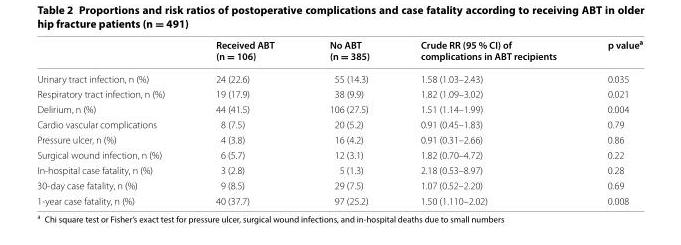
<table><thead><tr><td></td><td>Received ABT (n = 106)</td><td>No ABT (n = 385)</td><td>Crude RR (95 % CI) of complications in ABT recipients</td><td>p value<sup>a</sup></td></tr></thead><tbody><tr><td>Urinary tract infection, n (%)</td><td>24 (22.6)</td><td>55 (14.3)</td><td>1.58 (1.03–2.43)</td><td>0.035</td></tr><tr><td>Respiratory tract infection, n (%)</td><td>19 (17.9)</td><td>38 (9.9)</td><td>1.82 (1.09–3.02)</td><td>0.021</td></tr><tr><td>Delirium, n (%)</td><td>44 (41.5)</td><td>106 (27.5)</td><td>1.51 (1.14–1.99)</td><td>0.004</td></tr><tr><td>Cardio vascular complications</td><td>8 (7.5)</td><td>20 (5.2)</td><td>0.91 (0.45–1.83)</td><td>0.79</td></tr><tr><td>Pressure ulcer, n (%)</td><td>4 (3.8)</td><td>16 (4.2)</td><td>0.91 (0.31–2.66)</td><td>0.86</td></tr><tr><td>Surgical wound infection, n (%)</td><td>6 (5.7)</td><td>12 (3.1)</td><td>1.82 (0.70–4.72)</td><td>0.22</td></tr><tr><td>In-hospital case fatality, n (%)</td><td>3 (2.8)</td><td>5 (1.3)</td><td>2.18 (0.53–8.97)</td><td>0.28</td></tr><tr><td>30-day case fatality, n (%)</td><td>9 (8.5)</td><td>29 (7.5)</td><td>1.07 (0.52–2.20)</td><td>0.69</td></tr><tr><td>1-year case fatality, n (%)</td><td>40 (37.7)</td><td>97 (25.2)</td><td>1.50 (1.110–2.02)</td><td>0.008</td></tr></tbody></table>